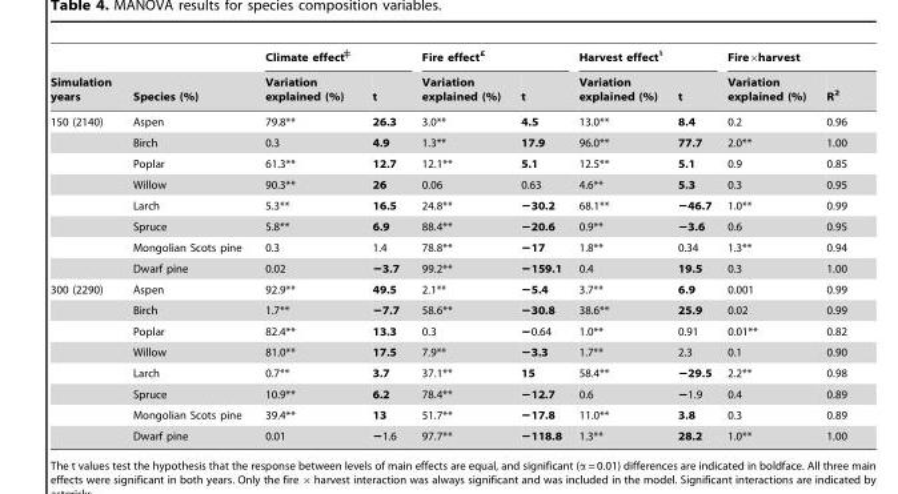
<table><thead><tr><td rowspan="2">Simulation years</td><td rowspan="2">Species (%)</td><td colspan="2">Climate effect</td><td colspan="2">Fire effect£</td><td colspan="2">Harvest effect§</td><td colspan="2">Fire×harvest</td></tr><tr><td>Variation explained (%)</td><td>t</td><td>Variation explained (%)</td><td>t</td><td>Variation explained (%)</td><td>t</td><td>Variation explained (%)</td><td>R<sup>2</sup></td></tr></thead><tbody><tr><td rowspan="8">150 (2140)</td><td>Aspen</td><td>79.8**</td><td>26.3</td><td>3.0**</td><td>4.5</td><td>13.0**</td><td>8.4</td><td>0.2</td><td>0.96</td></tr><tr><td>Birch</td><td>0.3</td><td>4.9</td><td>1.3**</td><td>17.9</td><td>96.0**</td><td>77.7</td><td>2.0**</td><td>1.00</td></tr><tr><td>Poplar</td><td>61.3**</td><td>12.7</td><td>12.1**</td><td>5.1</td><td>12.5**</td><td>5.1</td><td>0.9</td><td>0.85</td></tr><tr><td>Willow</td><td>90.3**</td><td>26</td><td>0.06</td><td>0.63</td><td>4.6**</td><td>5.3</td><td>0.3</td><td>0.95</td></tr><tr><td>Larch</td><td>5.3**</td><td>16.5</td><td>24.8**</td><td>−30.2</td><td>68.1**</td><td>−46.7</td><td>1.0**</td><td>0.99</td></tr><tr><td>Spruce</td><td>5.8**</td><td>6.9</td><td>88.4**</td><td>−20.6</td><td>0.9**</td><td>−3.6</td><td>0.6</td><td>0.95</td></tr><tr><td>Mongolian Scots pine</td><td>0.3</td><td>1.4</td><td>78.8**</td><td>−17</td><td>1.8**</td><td>0.34</td><td>1.3**</td><td>0.94</td></tr><tr><td>Dwarf pine</td><td>0.02</td><td>−3.7</td><td>99.2**</td><td>−159.1</td><td>0.4</td><td>19.5</td><td>0.3</td><td>1.00</td></tr><tr><td rowspan="8">300 (2290)</td><td>Aspen</td><td>92.9**</td><td>49.5</td><td>2.1**</td><td>−5.4</td><td>3.7**</td><td>6.9</td><td>0.001</td><td>0.99</td></tr><tr><td>Birch</td><td>1.7**</td><td>−7.7</td><td>58.6**</td><td>−30.8</td><td>38.6**</td><td>25.9</td><td>0.02</td><td>0.99</td></tr><tr><td>Poplar</td><td>82.4**</td><td>13.3</td><td>0.3</td><td>−0.64</td><td>1.0**</td><td>0.91</td><td>0.01**</td><td>0.82</td></tr><tr><td>Willow</td><td>81.0**</td><td>17.5</td><td>7.9**</td><td>−3.3</td><td>1.7**</td><td>2.3</td><td>0.1</td><td>0.90</td></tr><tr><td>Larch</td><td>0.7**</td><td>3.7</td><td>37.1**</td><td>15</td><td>58.4**</td><td>−29.5</td><td>2.2**</td><td>0.98</td></tr><tr><td>Spruce</td><td>10.9**</td><td>6.2</td><td>78.4**</td><td>−12.7</td><td>0.6</td><td>−1.9</td><td>0.4</td><td>0.89</td></tr><tr><td>Mongolian Scots pine</td><td>39.4**</td><td>13</td><td>51.7**</td><td>−17.8</td><td>11.0**</td><td>3.8</td><td>0.3</td><td>0.89</td></tr><tr><td>Dwarf pine</td><td>0.01</td><td>−1.6</td><td>97.7**</td><td>−118.8</td><td>1.3**</td><td>28.2</td><td>1.0**</td><td>1.00</td></tr></tbody></table>